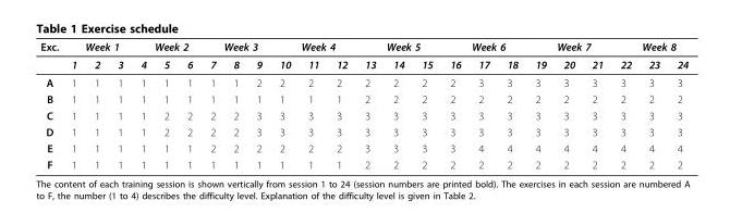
<table><thead><tr><td rowspan="2">Exc.</td><td colspan="3">Week 1</td><td colspan="3">Week 2</td><td colspan="3">Week 3</td><td colspan="3">Week 4</td><td colspan="3">Week 5</td><td colspan="3">Week 6</td><td colspan="3">Week 7</td><td colspan="3">Week 8</td></tr><tr><td>1</td><td>2</td><td>3</td><td>4</td><td>5</td><td>6</td><td>7</td><td>8</td><td>9</td><td>10</td><td>11</td><td>12</td><td>13</td><td>14</td><td>15</td><td>16</td><td>17</td><td>18</td><td>19</td><td>20</td><td>21</td><td>22</td><td>23</td><td>24</td></tr></thead><tbody><tr><td>A</td><td>1</td><td>1</td><td>1</td><td>1</td><td>1</td><td>1</td><td>1</td><td>1</td><td>2</td><td>2</td><td>2</td><td>2</td><td>2</td><td>2</td><td>2</td><td>2</td><td>3</td><td>3</td><td>3</td><td>3</td><td>3</td><td>3</td><td>3</td><td>3</td></tr><tr><td>B</td><td>1</td><td>1</td><td>1</td><td>1</td><td>1</td><td>1</td><td>1</td><td>1</td><td>1</td><td>1</td><td>1</td><td>1</td><td>2</td><td>2</td><td>2</td><td>2</td><td>2</td><td>2</td><td>2</td><td>2</td><td>2</td><td>2</td><td>2</td><td>2</td></tr><tr><td>C</td><td>1</td><td>1</td><td>1</td><td>1</td><td>2</td><td>2</td><td>2</td><td>2</td><td>3</td><td>3</td><td>3</td><td>3</td><td>3</td><td>3</td><td>3</td><td>3</td><td>3</td><td>3</td><td>3</td><td>3</td><td>3</td><td>3</td><td>3</td><td>3</td></tr><tr><td>D</td><td>1</td><td>1</td><td>1</td><td>1</td><td>2</td><td>2</td><td>2</td><td>2</td><td>3</td><td>3</td><td>3</td><td>3</td><td>3</td><td>3</td><td>3</td><td>3</td><td>3</td><td>3</td><td>3</td><td>3</td><td>3</td><td>3</td><td>3</td><td>3</td></tr><tr><td>E</td><td>1</td><td>1</td><td>1</td><td>1</td><td>1</td><td>1</td><td>2</td><td>2</td><td>2</td><td>2</td><td>2</td><td>2</td><td>3</td><td>3</td><td>3</td><td>3</td><td>4</td><td>4</td><td>4</td><td>4</td><td>4</td><td>4</td><td>4</td><td>4</td></tr><tr><td>F</td><td>1</td><td>1</td><td>1</td><td>1</td><td>1</td><td>1</td><td>1</td><td>1</td><td>1</td><td>1</td><td>1</td><td>1</td><td>2</td><td>2</td><td>2</td><td>2</td><td>2</td><td>2</td><td>2</td><td>2</td><td>2</td><td>2</td><td>2</td><td>2</td></tr></tbody></table>